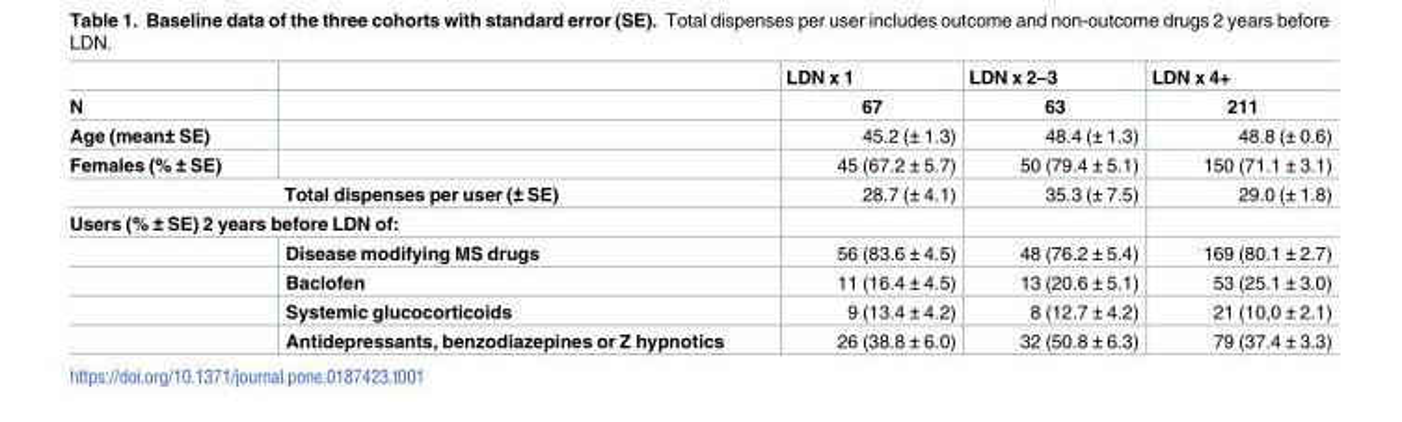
<table><thead><tr><td></td><td></td><td>LDN x 1</td><td>LDN x 2–3</td><td>LDN x 4+</td></tr></thead><tbody><tr><td>N</td><td></td><td>67</td><td>63</td><td>211</td></tr><tr><td>Age (mean± SE)</td><td></td><td>45.2 (± 1.3)</td><td>48.4 (± 1.3)</td><td>48.8 (± 0.6)</td></tr><tr><td>Females (% ± SE)</td><td></td><td>45 (67.2 ± 5.7)</td><td>50 (79.4 ± 5.1)</td><td>150 (71.1 ± 3.1)</td></tr><tr><td colspan="2">Total dispenses per user (± SE)</td><td>28.7 (± 4.1)</td><td>35.3 (± 7.5)</td><td>29.0 (± 1.8)</td></tr><tr><td colspan="5">Users (% ± SE) 2 years before LDN of:</td></tr><tr><td></td><td>Disease modifying MS drugs</td><td>56 (83.6 ± 4.5)</td><td>48 (76.2 ± 5.4)</td><td>169 (80.1 ± 2.7)</td></tr><tr><td></td><td>Baclofen</td><td>11 (16.4 ± 4.5)</td><td>13 (20.6 ± 5.1)</td><td>53 (25.1 ± 3.0)</td></tr><tr><td></td><td>Systemic glucocorticoids</td><td>9 (13.4 ± 4.2)</td><td>8 (12.7 ± 4.2)</td><td>21 (10,0 ± 2.1)</td></tr><tr><td></td><td>Antidepressants, benzodiazepines or Z hypnotics</td><td>26 (38.8 ± 6.0)</td><td>32 (50.8 ± 6.3)</td><td>79 (37.4 ± 3.3)</td></tr></tbody></table>